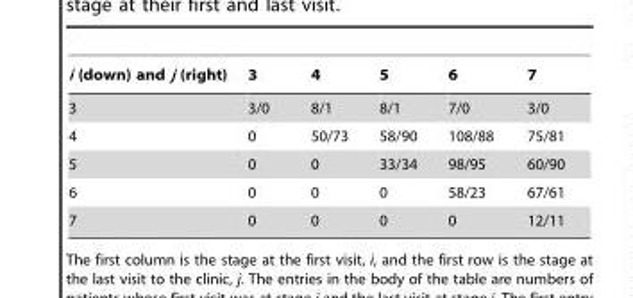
<table><thead><tr><td>i (down) and j (right)</td><td>3</td><td>4</td><td>5</td><td>6</td><td>7</td></tr></thead><tbody><tr><td>3</td><td>3/0</td><td>8/1</td><td>8/1</td><td>7/0</td><td>3/0</td></tr><tr><td>4</td><td>0</td><td>50/73</td><td>58/90</td><td>108/88</td><td>75/81</td></tr><tr><td>5</td><td>0</td><td>0</td><td>33/34</td><td>98/95</td><td>60/90</td></tr><tr><td>6</td><td>0</td><td>0</td><td>0</td><td>58/23</td><td>67/61</td></tr><tr><td>7</td><td>0</td><td>0</td><td>0</td><td>0</td><td>12/11</td></tr></tbody></table>